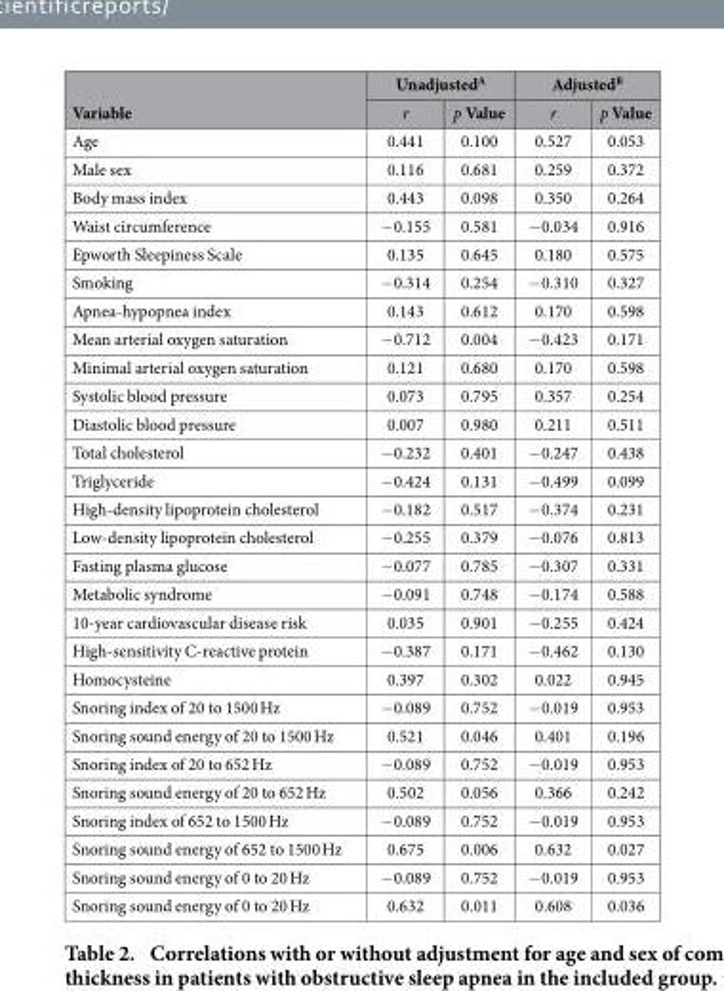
<table><thead><tr><td rowspan="2">Variable</td><td colspan="2">Unadjusted<sup>A</sup></td><td colspan="2">Adjusted<sup>B</sup></td></tr><tr><td>r</td><td>p Value</td><td>r</td><td>p Value</td></tr></thead><tbody><tr><td>Age</td><td>0.441</td><td>0.100</td><td>0.527</td><td>0.053</td></tr><tr><td>Male sex</td><td>0.116</td><td>0.681</td><td>0.259</td><td>0.372</td></tr><tr><td>Body mass index</td><td>0.443</td><td>0.098</td><td>0.350</td><td>0.264</td></tr><tr><td>Waist circumference</td><td>− 0.155</td><td>0.581</td><td>− 0.034</td><td>0.916</td></tr><tr><td>Epworth Sleepiness Scale</td><td>0.135</td><td>0.645</td><td>0.180</td><td>0.575</td></tr><tr><td>Smoking</td><td>− 0.314</td><td>0.254</td><td>− 0.310</td><td>0.327</td></tr><tr><td>Apnea-hypopnea index</td><td>0.143</td><td>0.612</td><td>0.170</td><td>0.598</td></tr><tr><td>Mean arterial oxygen saturation</td><td>− 0.712</td><td>0.004</td><td>− 0.423</td><td>0.171</td></tr><tr><td>Minimal arterial oxygen saturation</td><td>0.121</td><td>0.680</td><td>0.170</td><td>0.598</td></tr><tr><td>Systolic blood pressure</td><td>0.073</td><td>0.795</td><td>0.357</td><td>0.254</td></tr><tr><td>Diastolic blood pressure</td><td>0.007</td><td>0.980</td><td>0.211</td><td>0.511</td></tr><tr><td>Total cholesterol</td><td>− 0.232</td><td>0.401</td><td>− 0.247</td><td>0.438</td></tr><tr><td>Triglyceride</td><td>− 0.424</td><td>0.131</td><td>− 0.499</td><td>0.099</td></tr><tr><td>High-density lipoprotein cholesterol</td><td>− 0.182</td><td>0.517</td><td>− 0.374</td><td>0.231</td></tr><tr><td>Low-density lipoprotein cholesterol</td><td>− 0.255</td><td>0.379</td><td>− 0.076</td><td>0.813</td></tr><tr><td>Fasting plasma glucose</td><td>− 0.077</td><td>0.785</td><td>− 0.307</td><td>0.331</td></tr><tr><td>Metabolic syndrome</td><td>− 0.091</td><td>0.748</td><td>− 0.174</td><td>0.588</td></tr><tr><td>10-year cardiovascular disease risk</td><td>0.035</td><td>0.901</td><td>− 0.255</td><td>0.424</td></tr><tr><td>High-sensitivity C-reactive protein</td><td>− 0.387</td><td>0.171</td><td>− 0.462</td><td>0.130</td></tr><tr><td>Homocysteine</td><td>0.397</td><td>0.302</td><td>0.022</td><td>0.945</td></tr><tr><td>Snoring index of 20 to 1500 Hz</td><td>− 0.089</td><td>0.752</td><td>− 0.019</td><td>0.953</td></tr><tr><td>Snoring sound energy of 20 to 1500 Hz</td><td>0.521</td><td>0.046</td><td>0.401</td><td>0.196</td></tr><tr><td>Snoring index of 20 to 652 Hz</td><td>− 0.089</td><td>0.752</td><td>− 0.019</td><td>0.953</td></tr><tr><td>Snoring sound energy of 20 to 652 Hz</td><td>0.502</td><td>0.056</td><td>0.366</td><td>0.242</td></tr><tr><td>Snoring index of 652 to 1500 Hz</td><td>− 0.089</td><td>0.752</td><td>− 0.019</td><td>0.953</td></tr><tr><td>Snoring sound energy of 652 to 1500 Hz</td><td>0.675</td><td>0.006</td><td>0.632</td><td>0.027</td></tr><tr><td>Snoring sound energy of 0 to 20 Hz</td><td>− 0.089</td><td>0.752</td><td>− 0.019</td><td>0.953</td></tr><tr><td>Snoring sound energy of 0 to 20 Hz</td><td>0.632</td><td>0.011</td><td>0.608</td><td>0.036</td></tr></tbody></table>